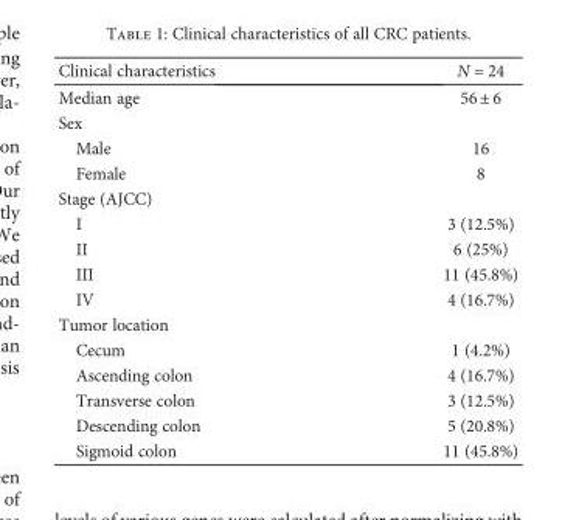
<table><thead><tr><td>Clinical characteristics</td><td>N = 24</td></tr></thead><tbody><tr><td>Median age</td><td>56 ± 6</td></tr><tr><td colspan="2">Sex</td></tr><tr><td>Male</td><td>16</td></tr><tr><td>Female</td><td>8</td></tr><tr><td colspan="2">Stage (AJCC)</td></tr><tr><td>I</td><td>3 (12.5%)</td></tr><tr><td>II</td><td>6 (25%)</td></tr><tr><td>III</td><td>11 (45.8%)</td></tr><tr><td>IV</td><td>4 (16.7%)</td></tr><tr><td colspan="2">Tumor location</td></tr><tr><td>Cecum</td><td>1 (4.2%)</td></tr><tr><td>Ascending colon</td><td>4 (16.7%)</td></tr><tr><td>Transverse colon</td><td>3 (12.5%)</td></tr><tr><td>Descending colon</td><td>5 (20.8%)</td></tr><tr><td>Sigmoid colon</td><td>11 (45.8%)</td></tr></tbody></table>